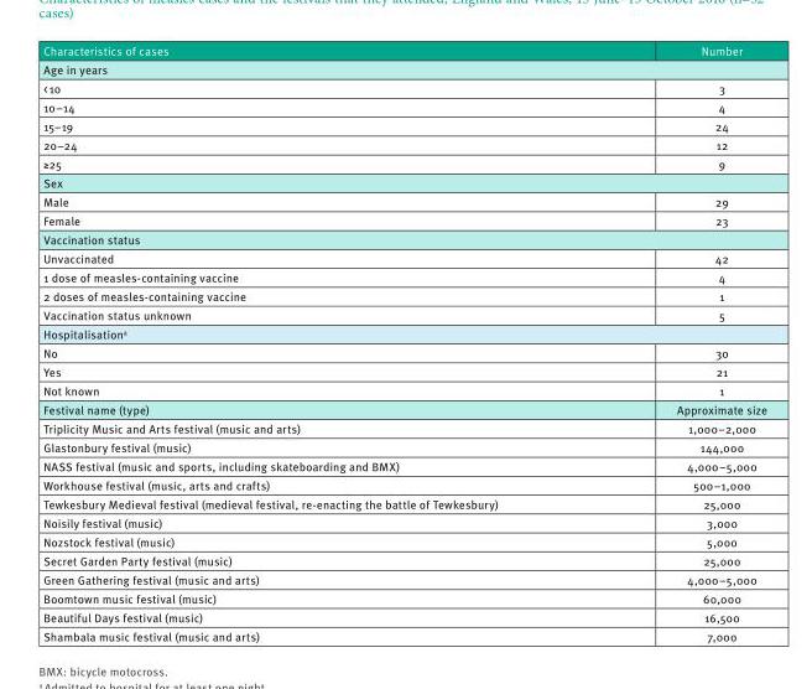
<table><thead><tr><td>Characteristics of cases</td><td>Number</td></tr></thead><tbody><tr><td colspan="2">Age in years</td></tr><tr><td>&lt; 10</td><td>3</td></tr><tr><td>10–14</td><td>4</td></tr><tr><td>15–19</td><td>24</td></tr><tr><td>20–24</td><td>12</td></tr><tr><td>≥25</td><td>9</td></tr><tr><td colspan="2">Sex</td></tr><tr><td>Male</td><td>29</td></tr><tr><td>Female</td><td>23</td></tr><tr><td colspan="2">Vaccination status</td></tr><tr><td>Unvaccinated</td><td>42</td></tr><tr><td>1 dose of measles-containing vaccine</td><td>4</td></tr><tr><td>2 doses of measles-containing vaccine</td><td>1</td></tr><tr><td>Vaccination status unknown</td><td>5</td></tr><tr><td colspan="2">Hospitalisation<sup>a</sup></td></tr><tr><td>No</td><td>30</td></tr><tr><td>Yes</td><td>21</td></tr><tr><td>Not known</td><td>1</td></tr><tr><td>Festival name (type)</td><td>Approximate size</td></tr><tr><td>Triplicity Music and Arts festival (music and arts)</td><td>1,000–2,000</td></tr><tr><td>Glastonbury festival (music)</td><td>144,000</td></tr><tr><td>NASS festival (music and sports, including skateboarding and BMX)</td><td>4,000–5,000</td></tr><tr><td>Workhouse festival (music, arts and crafts)</td><td>500–1,000</td></tr><tr><td>Tewkesbury Medieval festival (medieval festival, re-enacting the battle of Tewkesbury)</td><td>25,000</td></tr><tr><td>Noisily festival (music)</td><td>3,000</td></tr><tr><td>Nozstock festival (music)</td><td>5,000</td></tr><tr><td>Secret Garden Party festival (music)</td><td>25,000</td></tr><tr><td>Green Gathering festival (music and arts)</td><td>4,000–5,000</td></tr><tr><td>Boomtown music festival (music)</td><td>60,000</td></tr><tr><td>Beautiful Days festival (music)</td><td>16,500</td></tr><tr><td>Shambala music festival (music and arts)</td><td>7,000</td></tr></tbody></table>